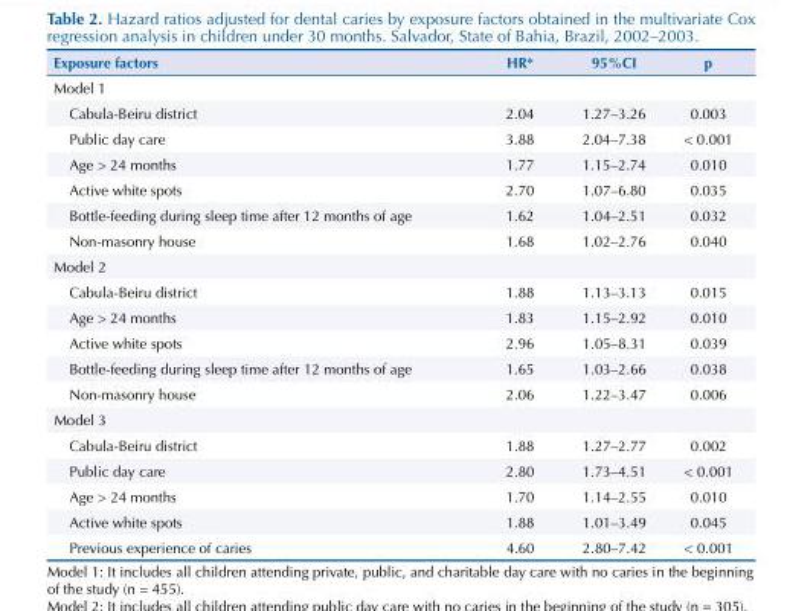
<table><thead><tr><td>Exposure factors</td><td>HR*</td><td>95%CI</td><td>p</td></tr></thead><tbody><tr><td colspan="4">Model 1</td></tr><tr><td>Cabula-Beiru district</td><td>2.04</td><td>1.27–3.26</td><td>0.003</td></tr><tr><td>Public day care</td><td>3.88</td><td>2.04–7.38</td><td>&lt; 0.001</td></tr><tr><td>Age &gt; 24 months</td><td>1.77</td><td>1.15–2.74</td><td>0.010</td></tr><tr><td>Active white spots</td><td>2.70</td><td>1.07–6.80</td><td>0.035</td></tr><tr><td>Bottle-feeding during sleep time after 12 months of age</td><td>1.62</td><td>1.04–2.51</td><td>0.032</td></tr><tr><td>Non-masonry house</td><td>1.68</td><td>1.02–2.76</td><td>0.040</td></tr><tr><td colspan="4">Model 2</td></tr><tr><td>Cabula-Beiru district</td><td>1.88</td><td>1.13–3.13</td><td>0.015</td></tr><tr><td>Age &gt; 24 months</td><td>1.83</td><td>1.15–2.92</td><td>0.010</td></tr><tr><td>Active white spots</td><td>2.96</td><td>1.05–8.31</td><td>0.039</td></tr><tr><td>Bottle-feeding during sleep time after 12 months of age</td><td>1.65</td><td>1.03–2.66</td><td>0.038</td></tr><tr><td>Non-masonry house</td><td>2.06</td><td>1.22–3.47</td><td>0.006</td></tr><tr><td colspan="4">Model 3</td></tr><tr><td>Cabula-Beiru district</td><td>1.88</td><td>1.27–2.77</td><td>0.002</td></tr><tr><td>Public day care</td><td>2.80</td><td>1.73–4.51</td><td>&lt; 0.001</td></tr><tr><td>Age &gt; 24 months</td><td>1.70</td><td>1.14–2.55</td><td>0.010</td></tr><tr><td>Active white spots</td><td>1.88</td><td>1.01–3.49</td><td>0.045</td></tr><tr><td>Previous experience of caries</td><td>4.60</td><td>2.80–7.42</td><td>&lt; 0.001</td></tr></tbody></table>